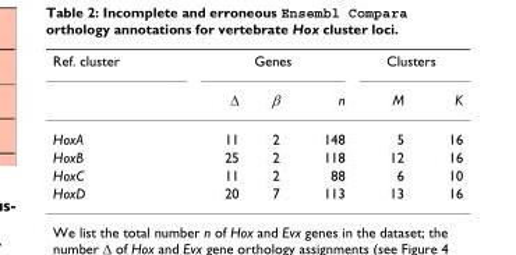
<table><thead><tr><td rowspan="2">Ref. cluster</td><td colspan="3">Genes</td><td colspan="2">Clusters</td></tr><tr><td>Δ</td><td>β</td><td>n</td><td>M</td><td>K</td></tr></thead><tbody><tr><td>HoxA</td><td>11</td><td>2</td><td>148</td><td>5</td><td>16</td></tr><tr><td>HoxB</td><td>25</td><td>2</td><td>118</td><td>12</td><td>16</td></tr><tr><td>HoxC</td><td>11</td><td>2</td><td>88</td><td>6</td><td>10</td></tr><tr><td>HoxD</td><td>20</td><td>7</td><td>113</td><td>13</td><td>16</td></tr></tbody></table>